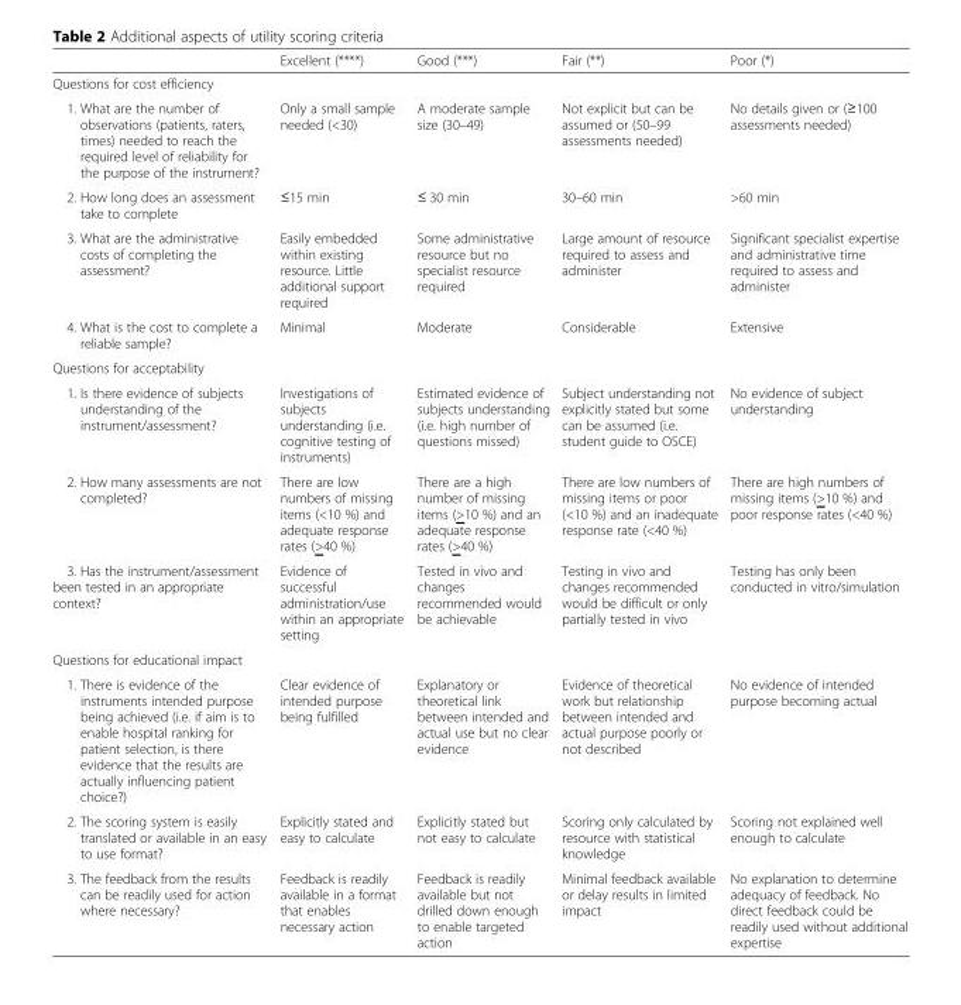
<table><thead><tr><td></td><td>Excellent (****)</td><td>Good (***)</td><td>Fair (**)</td><td>Poor (*)</td></tr></thead><tbody><tr><td colspan="5">Questions for cost efficiency</td></tr><tr><td>1. What are the number of observations (patients, raters, times) needed to reach the required level of reliability for the purpose of the instrument?</td><td>Only a small sample needed (&lt;30)</td><td>A moderate sample size (30–49)</td><td>Not explicit but can be assumed or (50–99 assessments needed)</td><td>No details given or (≥100 assessments needed)</td></tr><tr><td>2. How long does an assessment take to complete</td><td>≤15 min</td><td>≤ 30 min</td><td>30–60 min</td><td>&gt;60 min</td></tr><tr><td>3. What are the administrative costs of completing the assessment?</td><td>Easily embedded within existing resource. Little additional support required</td><td>Some administrative resource but no specialist resource required</td><td>Large amount of resource required to assess and administer</td><td>Significant specialist expertise and administrative time required to assess and administer</td></tr><tr><td>4. What is the cost to complete a reliable sample?</td><td>Minimal</td><td>Moderate</td><td>Considerable</td><td>Extensive</td></tr><tr><td colspan="5">Questions for acceptability</td></tr><tr><td>1. Is there evidence of subjects understanding of the instrument/assessment?</td><td>Investigations of subjects understanding (i.e. cognitive testing of instruments)</td><td>Estimated evidence of subjects understanding (i.e. high number of questions missed)</td><td>Subject understanding not explicitly stated but some can be assumed (i.e. student guide to OSCE)</td><td>No evidence of subject understanding</td></tr><tr><td>2. How many assessments are not completed?</td><td>There are low numbers of missing items (&lt;10 %) and adequate response rates (&gt;40 %)</td><td>There are a high number of missing items (&gt;10 %) and an adequate response rates (&gt;40 %)</td><td>There are low numbers of missing items or poor (&lt;10 %) and an inadequate response rate (&lt;40 %)</td><td>There are high numbers of missing items (&gt;10 %) and poor response rates (&lt;40 %)</td></tr><tr><td>3. Has the instrument/assessment been tested in an appropriate context?</td><td>Evidence of successful administration/use within an appropriate setting</td><td>Tested in vivo and changes recommended would be achievable</td><td>Testing in vivo and changes recommended would be difficult or only partially tested in vivo</td><td>Testing has only been conducted in vitro/simulation</td></tr><tr><td colspan="5">Questions for educational impact</td></tr><tr><td>1. There is evidence of the instruments intended purpose being achieved (i.e. if aim is to enable hospital ranking for patient selection, is there evidence that the results are actually influencing patient choice?)</td><td>Clear evidence of intended purpose being fulfilled</td><td>Explanatory or theoretical link between intended and actual use but no clear evidence</td><td>Evidence of theoretical work but relationship between intended and actual purpose poorly or not described</td><td>No evidence of intended purpose becoming actual</td></tr><tr><td>2. The scoring system is easily translated or available in an easy to use format?</td><td>Explicitly stated and easy to calculate</td><td>Explicitly stated but not easy to calculate</td><td>Scoring only calculated by resource with statistical knowledge</td><td>Scoring not explained well enough to calculate</td></tr><tr><td>3. The feedback from the results can be readily used for action where necessary?</td><td>Feedback is readily available in a format that enables necessary action</td><td>Feedback is readily available but not drilled down enough to enable targeted action</td><td>Minimal feedback available or delay results in limited impact</td><td>No explanation to determine adequacy of feedback. No direct feedback could be readily used without additional expertise</td></tr></tbody></table>